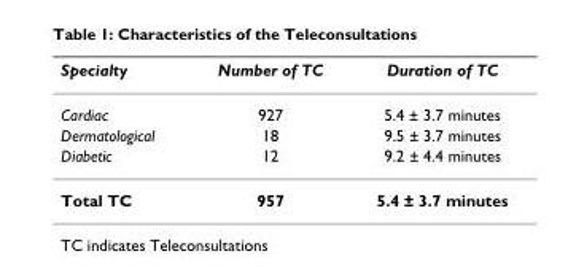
<table><thead><tr><td>Specialty</td><td>Number of TC</td><td>Duration of TC</td></tr></thead><tbody><tr><td>Cardiac</td><td>927</td><td>5.4 ± 3.7 minutes</td></tr><tr><td>Dermatological</td><td>18</td><td>9.5 ± 3.7 minutes</td></tr><tr><td>Diabetic</td><td>12</td><td>9.2 ± 4.4 minutes</td></tr><tr><td>Total TC</td><td>957</td><td>5.4 ± 3.7 minutes</td></tr></tbody></table>